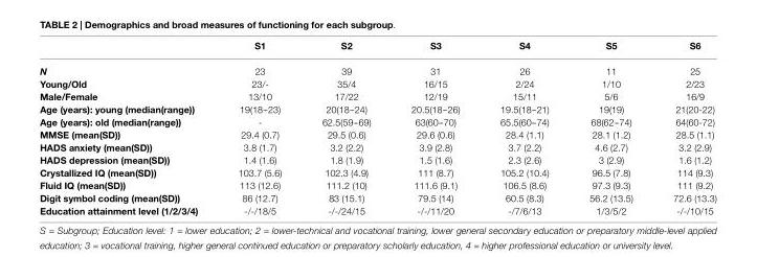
<table><thead><tr><td></td><td>S1</td><td>S2</td><td>S3</td><td>S4</td><td>S5</td><td>S6</td></tr></thead><tbody><tr><td>N</td><td>23</td><td>39</td><td>31</td><td>26</td><td>11</td><td>25</td></tr><tr><td>Young/Old</td><td>23/-</td><td>35/4</td><td>16/15</td><td>2/24</td><td>1/10</td><td>2/23</td></tr><tr><td>Male/Female</td><td>13/10</td><td>17/22</td><td>12/19</td><td>15/11</td><td>5/6</td><td>16/9</td></tr><tr><td>Age (years): young (median(range))</td><td>19(18--23)</td><td>20(18--24)</td><td>20.5(18--26)</td><td>19.5(18--21)</td><td>19(19)</td><td>21(20-22)</td></tr><tr><td>Age (years): old (median(range))</td><td>-</td><td>62.5(59--69)</td><td>63(60--70)</td><td>65.5(60--74)</td><td>68(62--74)</td><td>64(60-72)</td></tr><tr><td>MMSE (mean(SD))</td><td>29.4 (0.7)</td><td>29.5 (0.6)</td><td>29.6 (0.6)</td><td>28.4 (1.1)</td><td>28.1 (1.2)</td><td>28.5 (1.1)</td></tr><tr><td>HADS anxiety (mean(SD))</td><td>3.8 (1.7)</td><td>3.2 (2.2)</td><td>3.9 (2.8)</td><td>3.7 (2.2)</td><td>4.6 (2.7)</td><td>3.2 (2.9)</td></tr><tr><td>HADS depression (mean(SD))</td><td>1.4 (1.6)</td><td>1.8 (1.9)</td><td>1.5 (1.6)</td><td>2.3 (2.6)</td><td>3 (2.9)</td><td>1.6 (1.2)</td></tr><tr><td>Crystallized IQ (mean(SD))</td><td>103.7 (5.6)</td><td>102.3 (4.9)</td><td>111 (8.7)</td><td>105.2 (10.4)</td><td>96.5 (7.8)</td><td>114 (9.3)</td></tr><tr><td>Fluid IQ (mean(SD))</td><td>113 (12.6)</td><td>111.2 (10)</td><td>111.6 (9.1)</td><td>106.5 (8.6)</td><td>97.3 (9.3)</td><td>111 (9.2)</td></tr><tr><td>Digit symbol coding (mean(SD))</td><td>86 (12.7)</td><td>83 (15.1)</td><td>79.5 (14)</td><td>60.5 (8.3)</td><td>56.2 (13.5)</td><td>72.6 (13.3)</td></tr><tr><td>Education attainment level (1/2/3/4)</td><td>-/-/18/5</td><td>-/-/24/15</td><td>-/-/11/20</td><td>-/7/6/13</td><td>1/3/5/2</td><td>-/-/10/15</td></tr></tbody></table>